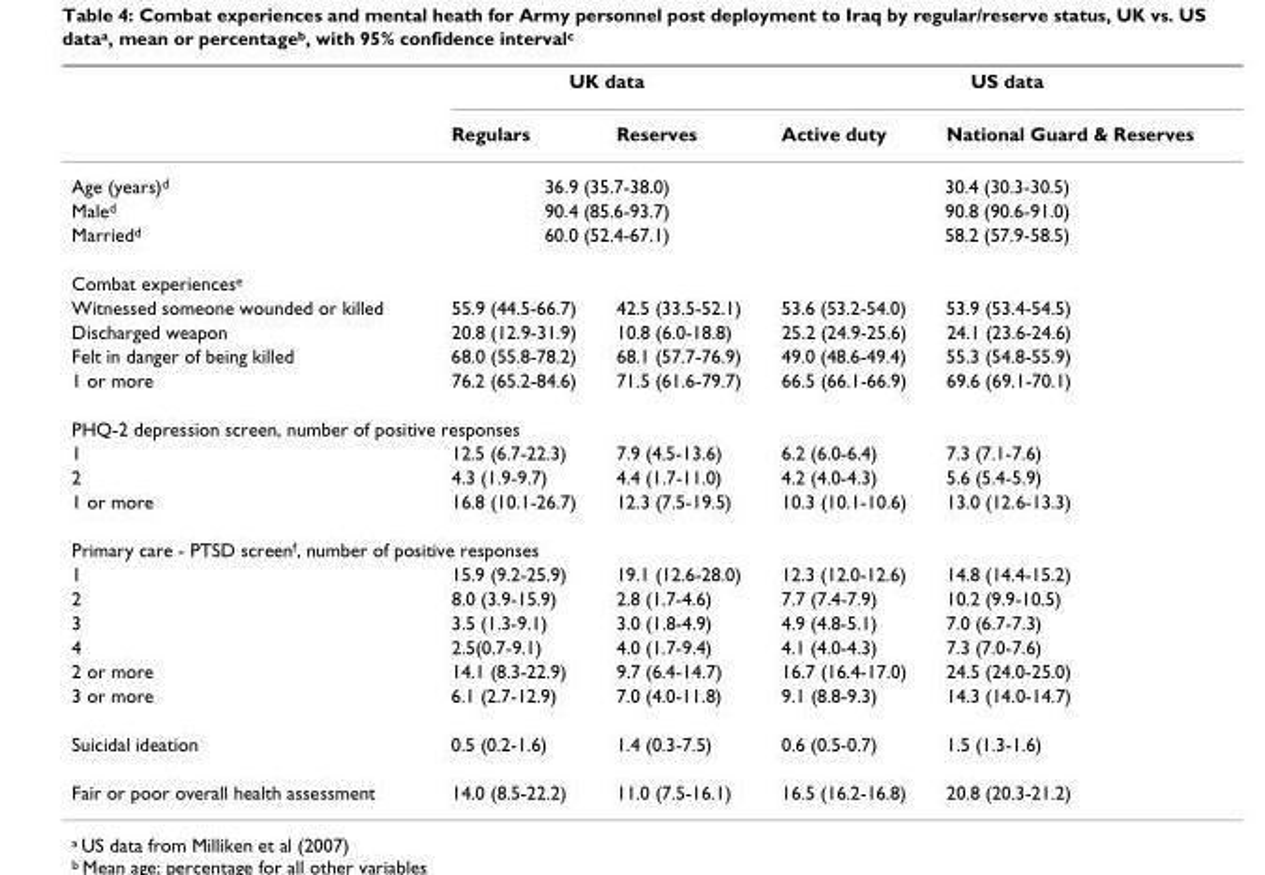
<table><thead><tr><td rowspan="2"></td><td colspan="2">UK data</td><td colspan="2">US data</td></tr><tr><td>Regulars</td><td>Reserves</td><td>Active duty</td><td>National Guard &amp; Reserves</td></tr></thead><tbody><tr><td>Age (years)<sup>d</sup></td><td colspan="2">36.9 (35.7-38.0)</td><td colspan="2">30.4 (30.3-30.5)</td></tr><tr><td>Male<sup>d</sup></td><td colspan="2">90.4 (85.6-93.7)</td><td colspan="2">90.8 (90.6-91.0)</td></tr><tr><td>Married<sup>d</sup></td><td colspan="2">60.0 (52.4-67.1)</td><td colspan="2">58.2 (57.9-58.5)</td></tr><tr><td colspan="5">Combat experiences<sup>e</sup></td></tr><tr><td>Witnessed someone wounded or killed</td><td>55.9 (44.5-66.7)</td><td>42.5 (33.5-52.1)</td><td>53.6 (53.2-54.0)</td><td>53.9 (53.4-54.5)</td></tr><tr><td>Discharged weapon</td><td>20.8 (12.9-31.9)</td><td>10.8 (6.0-18.8)</td><td>25.2 (24.9-25.6)</td><td>24.1 (23.6-24.6)</td></tr><tr><td>Felt in danger of being killed</td><td>68.0 (55.8-78.2)</td><td>68.1 (57.7-76.9)</td><td>49.0 (48.6-49.4)</td><td>55.3 (54.8-55.9)</td></tr><tr><td>1 or more</td><td>76.2 (65.2-84.6)</td><td>71.5 (61.6-79.7)</td><td>66.5 (66.1-66.9)</td><td>69.6 (69.1-70.1)</td></tr><tr><td colspan="5">PHQ-2 depression screen, number of positive responses</td></tr><tr><td>1</td><td>12.5 (6.7-22.3)</td><td>7.9 (4.5-13.6)</td><td>6.2 (6.0-6.4)</td><td>7.3 (7.1-7.6)</td></tr><tr><td>2</td><td>4.3 (1.9-9.7)</td><td>4.4 (1.7-11.0)</td><td>4.2 (4.0-4.3)</td><td>5.6 (5.4-5.9)</td></tr><tr><td>1 or more</td><td>16.8 (10.1-26.7)</td><td>12.3 (7.5-19.5)</td><td>10.3 (10.1-10.6)</td><td>13.0 (12.6-13.3)</td></tr><tr><td colspan="5">Primary care - PTSD screen<sup>f</sup>, number of positive responses</td></tr><tr><td>1</td><td>15.9 (9.2-25.9)</td><td>19.1 (12.6-28.0)</td><td>12.3 (12.0-12.6)</td><td>14.8 (14.4-15.2)</td></tr><tr><td>2</td><td>8.0 (3.9-15.9)</td><td>2.8 (1.7-4.6)</td><td>7.7 (7.4-7.9)</td><td>10.2 (9.9-10.5)</td></tr><tr><td>3</td><td>3.5 (1.3-9.1)</td><td>3.0 (1.8-4.9)</td><td>4.9 (4.8-5.1)</td><td>7.0 (6.7-7.3)</td></tr><tr><td>4</td><td>2.5(0.7-9.1)</td><td>4.0 (1.7-9.4)</td><td>4.1 (4.0-4.3)</td><td>7.3 (7.0-7.6)</td></tr><tr><td>2 or more</td><td>14.1 (8.3-22.9)</td><td>9.7 (6.4-14.7)</td><td>16.7 (16.4-17.0)</td><td>24.5 (24.0-25.0)</td></tr><tr><td>3 or more</td><td>6.1 (2.7-12.9)</td><td>7.0 (4.0-11.8)</td><td>9.1 (8.8-9.3)</td><td>14.3 (14.0-14.7)</td></tr><tr><td>Suicidal ideation</td><td>0.5 (0.2-1.6)</td><td>1.4 (0.3-7.5)</td><td>0.6 (0.5-0.7)</td><td>1.5 (1.3-1.6)</td></tr><tr><td>Fair or poor overall health assessment</td><td>14.0 (8.5-22.2)</td><td>11.0 (7.5-16.1)</td><td>16.5 (16.2-16.8)</td><td>20.8 (20.3-21.2)</td></tr></tbody></table>